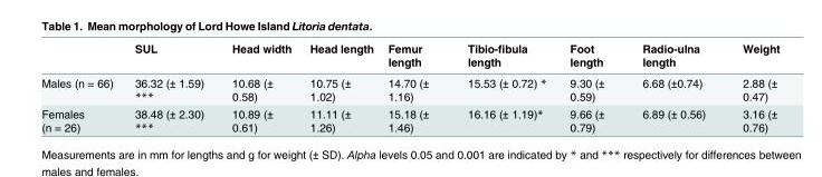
<table><thead><tr><td></td><td>SUL</td><td>Head width</td><td>Head length</td><td>Femur length</td><td>Tibio-fibula length</td><td>Foot length</td><td>Radio-ulna length</td><td>Weight</td></tr></thead><tbody><tr><td>Males (n = 66)</td><td>36.32 (± 1.59) ***</td><td>10.68 (± 0.58)</td><td>10.75 (± 1.02)</td><td>14.70 (± 1.16)</td><td>15.53 (± 0.72) *</td><td>9.30 (± 0.59)</td><td>6.68 (±0.74)</td><td>2.88 (± 0.47)</td></tr><tr><td>Females (n = 26)</td><td>38.48 (± 2.30) ***</td><td>10.89 (± 0.61)</td><td>11.11 (± 1.26)</td><td>15.18 (± 1.46)</td><td>16.16 (± 1.19)*</td><td>9.66 (± 0.79)</td><td>6.89 (± 0.56)</td><td>3.16 (± 0.76)</td></tr></tbody></table>